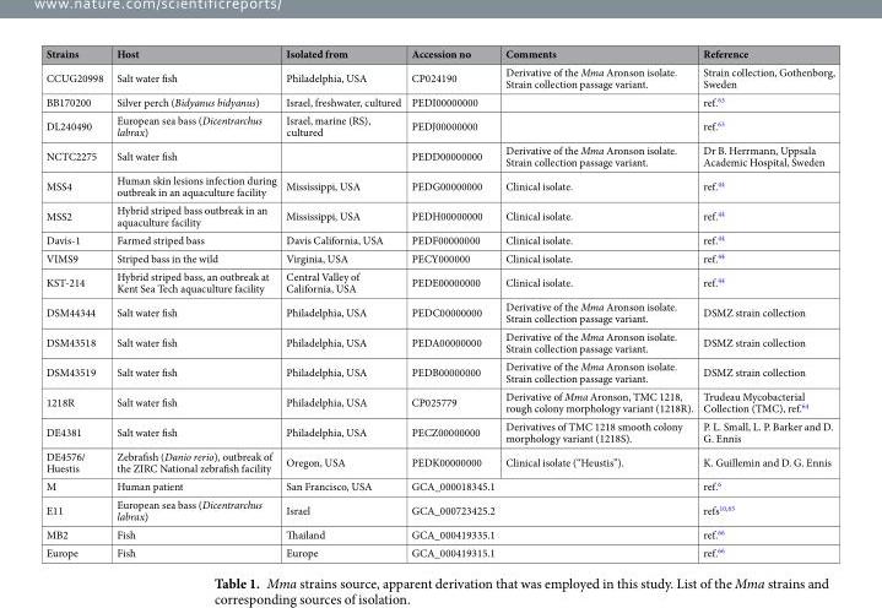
<table><thead><tr><td>Strains</td><td>Host</td><td>Isolated from</td><td>Accession no</td><td>Comments</td><td>Reference</td></tr></thead><tbody><tr><td>CCUG20998</td><td>Salt water fish</td><td>Philadelphia, USA</td><td>CP024190</td><td>Derivative of the Mma Aronson isolate. Strain collection passage variant.</td><td>Strain collection, Gothenborg, Sweden</td></tr><tr><td>BB170200</td><td>Silver perch (Bidyanus bidyanus)</td><td>Israel, freshwater, cultured</td><td>PEDI00000000</td><td></td><td>ref.<sup>63</sup></td></tr><tr><td>DL240490</td><td>European sea bass (Dicentrarchus labrax)</td><td>Israel, marine (RS), cultured</td><td>PEDJ00000000</td><td></td><td>ref.<sup>63</sup></td></tr><tr><td>NCTC2275</td><td>Salt water fish</td><td></td><td>PEDD00000000</td><td>Derivative of the Mma Aronson isolate. Strain collection passage variant.</td><td>Dr B. Herrmann, Uppsala Academic Hospital, Sweden</td></tr><tr><td>MSS4</td><td>Human skin lesions infection during outbreak in an aquaculture facility</td><td>Mississippi, USA</td><td>PEDG00000000</td><td>Clinical isolate.</td><td>ref.<sup>44</sup></td></tr><tr><td>MSS2</td><td>Hybrid striped bass outbreak in an aquaculture facility</td><td>Mississippi, USA</td><td>PEDH00000000</td><td>Clinical isolate.</td><td>ref.<sup>44</sup></td></tr><tr><td>Davis-1</td><td>Farmed striped bass</td><td>Davis California, USA</td><td>PEDF00000000</td><td>Clinical isolate.</td><td>ref.<sup>44</sup></td></tr><tr><td>VIMS9</td><td>Striped bass in the wild</td><td>Virginia, USA</td><td>PECY000000</td><td>Clinical isolate.</td><td>ref.<sup>44</sup></td></tr><tr><td>KST-214</td><td>Hybrid striped bass, an outbreak at Kent Sea Tech aquaculture facility</td><td>Central Valley of California, USA</td><td>PEDE00000000</td><td>Clinical isolate.</td><td>ref.<sup>44</sup></td></tr><tr><td>DSM44344</td><td>Salt water fish</td><td>Philadelphia, USA</td><td>PEDC00000000</td><td>Derivative of the Mma Aronson isolate. Strain collection passage variant.</td><td>DSMZ strain collection</td></tr><tr><td>DSM43518</td><td>Salt water fish</td><td>Philadelphia, USA</td><td>PEDA00000000</td><td>Derivative of the Mma Aronson isolate. Strain collection passage variant.</td><td>DSMZ strain collection</td></tr><tr><td>DSM43519</td><td>Salt water fish</td><td>Philadelphia, USA</td><td>PEDB00000000</td><td>Derivative of the Mma Aronson isolate. Strain collection passage variant.</td><td>DSMZ strain collection</td></tr><tr><td>1218R</td><td>Salt water fish</td><td>Philadelphia, USA</td><td>CP025779</td><td>Derivative of Mma Aronson, TMC 1218, rough colony morphology variant (1218R).</td><td>Trudeau Mycobacterial Collection (TMC), ref.<sup>64</sup></td></tr><tr><td>DE4381</td><td>Salt water fish</td><td>Philadelphia, USA</td><td>PECZ00000000</td><td>Derivatives of TMC 1218 smooth colony morphology variant (1218S).</td><td>P. L. Small, L. P. Barker and D. G. Ennis</td></tr><tr><td>DE4576/ Huestis</td><td>Zebrafish (Danio rerio), outbreak of the ZIRC National zebrafish facility</td><td>Oregon, USA</td><td>PEDK00000000</td><td>Clinical isolate (“Heustis”).</td><td>K. Guillemin and D. G. Ennis</td></tr><tr><td>M</td><td>Human patient</td><td>San Francisco, USA</td><td colspan="2">GCA_000018345.1</td><td>ref.<sup>6</sup></td></tr><tr><td>E11</td><td>European sea bass (Dicentrarchus labrax)</td><td>Israel</td><td colspan="2">GCA_000723425.2</td><td>refs<sup>10,65</sup></td></tr><tr><td>MB2</td><td>Fish</td><td>Thailand</td><td colspan="2">GCA_000419335.1</td><td>ref.<sup>66</sup></td></tr><tr><td>Europe</td><td>Fish</td><td>Europe</td><td colspan="2">GCA_000419315.1</td><td>ref.<sup>66</sup></td></tr></tbody></table>